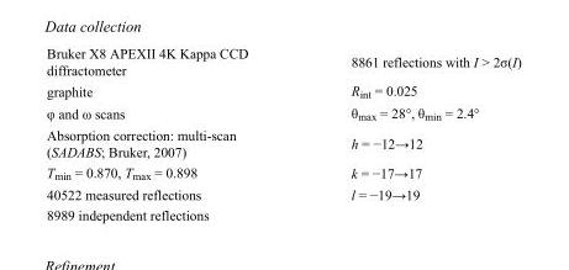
<table><tbody><tr><td>Bruker X8 APEXII 4K Kappa CCD diffractometer</td><td>8861 reflections with I &gt; 2σ(I)</td></tr><tr><td>graphite</td><td>R<sub>int</sub> = 0.025</td></tr><tr><td>φ and ω scans</td><td>θ<sub>max</sub> = 28°, θ<sub>min</sub> = 2.4°</td></tr><tr><td>Absorption correction: multi-scan (SADABS; Bruker, 2007)</td><td>h = −12→12</td></tr><tr><td>T<sub>min</sub> = 0.870, T<sub>max</sub> = 0.898</td><td>k = −17→17</td></tr><tr><td>40522 measured reflections</td><td>l = −19→19</td></tr><tr><td>8989 independent reflections</td><td></td></tr></tbody></table>